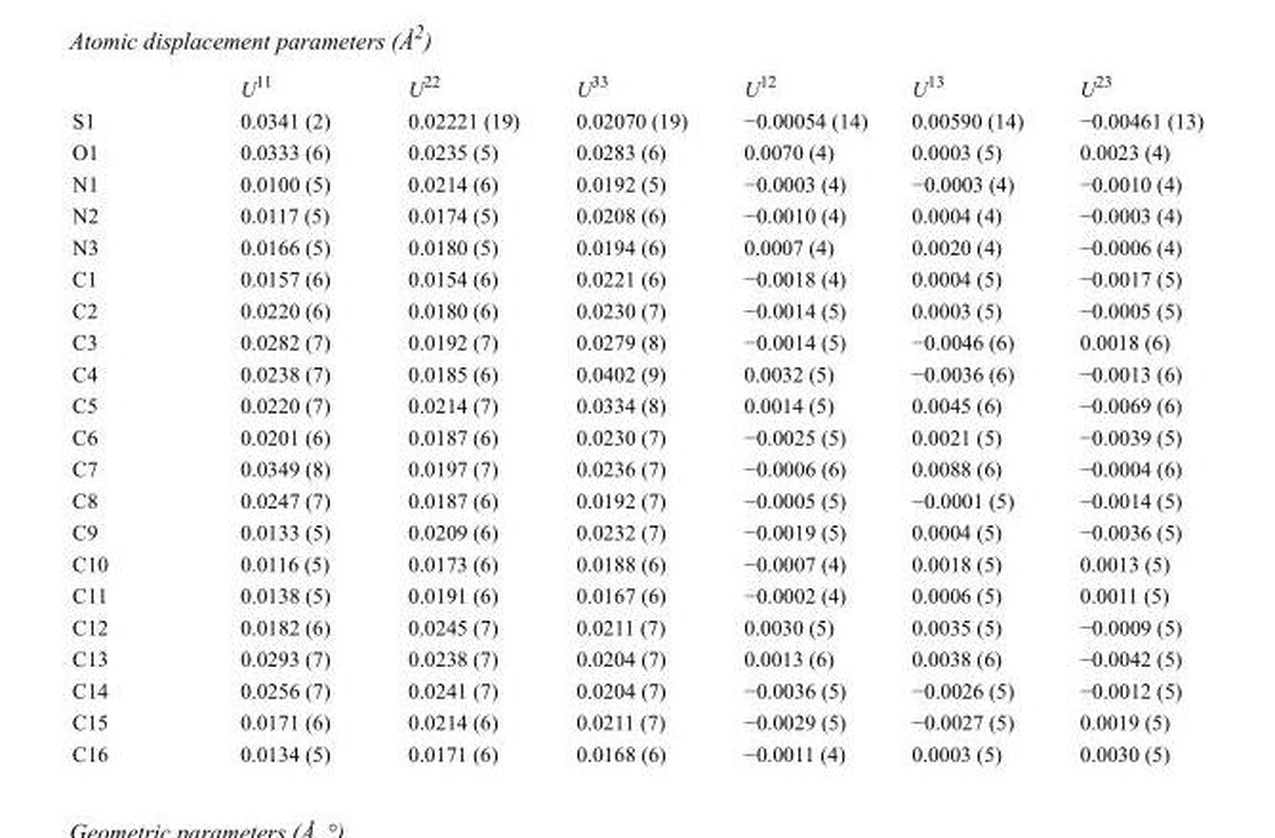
<table><thead><tr><td></td><td>U<sup>11</sup></td><td>U<sup>22</sup></td><td>U<sup>33</sup></td><td>U<sup>12</sup></td><td>U<sup>13</sup></td><td>U<sup>23</sup></td></tr></thead><tbody><tr><td>S1</td><td>0.0341 (2)</td><td>0.02221 (19)</td><td>0.02070 (19)</td><td>−0.00054 (14)</td><td>0.00590 (14)</td><td>−0.00461 (13)</td></tr><tr><td>O1</td><td>0.0333 (6)</td><td>0.0235 (5)</td><td>0.0283 (6)</td><td>0.0070 (4)</td><td>0.0003 (5)</td><td>0.0023 (4)</td></tr><tr><td>N1</td><td>0.0100 (5)</td><td>0.0214 (6)</td><td>0.0192 (5)</td><td>−0.0003 (4)</td><td>−0.0003 (4)</td><td>−0.0010 (4)</td></tr><tr><td>N2</td><td>0.0117 (5)</td><td>0.0174 (5)</td><td>0.0208 (6)</td><td>−0.0010 (4)</td><td>0.0004 (4)</td><td>−0.0003 (4)</td></tr><tr><td>N3</td><td>0.0166 (5)</td><td>0.0180 (5)</td><td>0.0194 (6)</td><td>0.0007 (4)</td><td>0.0020 (4)</td><td>−0.0006 (4)</td></tr><tr><td>C1</td><td>0.0157 (6)</td><td>0.0154 (6)</td><td>0.0221 (6)</td><td>−0.0018 (4)</td><td>0.0004 (5)</td><td>−0.0017 (5)</td></tr><tr><td>C2</td><td>0.0220 (6)</td><td>0.0180 (6)</td><td>0.0230 (7)</td><td>−0.0014 (5)</td><td>0.0003 (5)</td><td>−0.0005 (5)</td></tr><tr><td>C3</td><td>0.0282 (7)</td><td>0.0192 (7)</td><td>0.0279 (8)</td><td>−0.0014 (5)</td><td>−0.0046 (6)</td><td>0.0018 (6)</td></tr><tr><td>C4</td><td>0.0238 (7)</td><td>0.0185 (6)</td><td>0.0402 (9)</td><td>0.0032 (5)</td><td>−0.0036 (6)</td><td>−0.0013 (6)</td></tr><tr><td>C5</td><td>0.0220 (7)</td><td>0.0214 (7)</td><td>0.0334 (8)</td><td>0.0014 (5)</td><td>0.0045 (6)</td><td>−0.0069 (6)</td></tr><tr><td>C6</td><td>0.0201 (6)</td><td>0.0187 (6)</td><td>0.0230 (7)</td><td>−0.0025 (5)</td><td>0.0021 (5)</td><td>−0.0039 (5)</td></tr><tr><td>C7</td><td>0.0349 (8)</td><td>0.0197 (7)</td><td>0.0236 (7)</td><td>−0.0006 (6)</td><td>0.0088 (6)</td><td>−0.0004 (6)</td></tr><tr><td>C8</td><td>0.0247 (7)</td><td>0.0187 (6)</td><td>0.0192 (7)</td><td>−0.0005 (5)</td><td>−0.0001 (5)</td><td>−0.0014 (5)</td></tr><tr><td>C9</td><td>0.0133 (5)</td><td>0.0209 (6)</td><td>0.0232 (7)</td><td>−0.0019 (5)</td><td>0.0004 (5)</td><td>−0.0036 (5)</td></tr><tr><td>C10</td><td>0.0116 (5)</td><td>0.0173 (6)</td><td>0.0188 (6)</td><td>−0.0007 (4)</td><td>0.0018 (5)</td><td>0.0013 (5)</td></tr><tr><td>C11</td><td>0.0138 (5)</td><td>0.0191 (6)</td><td>0.0167 (6)</td><td>−0.0002 (4)</td><td>0.0006 (5)</td><td>0.0011 (5)</td></tr><tr><td>C12</td><td>0.0182 (6)</td><td>0.0245 (7)</td><td>0.0211 (7)</td><td>0.0030 (5)</td><td>0.0035 (5)</td><td>−0.0009 (5)</td></tr><tr><td>C13</td><td>0.0293 (7)</td><td>0.0238 (7)</td><td>0.0204 (7)</td><td>0.0013 (6)</td><td>0.0038 (6)</td><td>−0.0042 (5)</td></tr><tr><td>C14</td><td>0.0256 (7)</td><td>0.0241 (7)</td><td>0.0204 (7)</td><td>−0.0036 (5)</td><td>−0.0026 (5)</td><td>−0.0012 (5)</td></tr><tr><td>C15</td><td>0.0171 (6)</td><td>0.0214 (6)</td><td>0.0211 (7)</td><td>−0.0029 (5)</td><td>−0.0027 (5)</td><td>0.0019 (5)</td></tr><tr><td>C16</td><td>0.0134 (5)</td><td>0.0171 (6)</td><td>0.0168 (6)</td><td>−0.0011 (4)</td><td>0.0003 (5)</td><td>0.0030 (5)</td></tr></tbody></table>